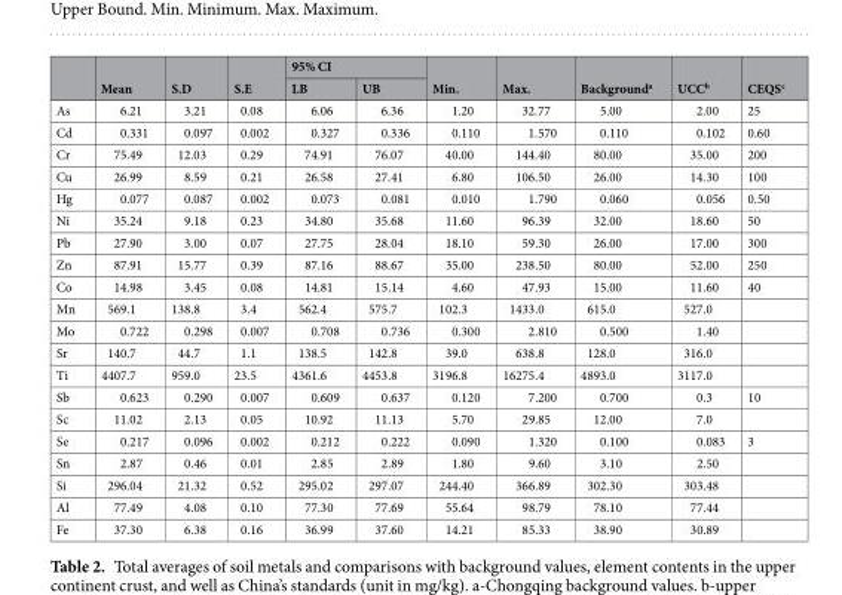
<table><thead><tr><td rowspan="2"></td><td rowspan="2">Mean</td><td rowspan="2">S.D</td><td rowspan="2">S.E</td><td colspan="2">95% CI</td><td rowspan="2">Min.</td><td rowspan="2">Max.</td><td rowspan="2">Background<sup>a</sup></td><td rowspan="2">UCC<sup>b</sup></td><td rowspan="2">CEQS<sup>c</sup></td></tr><tr><td>LB</td><td>UB</td></tr></thead><tbody><tr><td>As</td><td>6.21</td><td>3.21</td><td>0.08</td><td>6.06</td><td>6.36</td><td>1.20</td><td>32.77</td><td>5.00</td><td>2.00</td><td>25</td></tr><tr><td>Cd</td><td>0.331</td><td>0.097</td><td>0.002</td><td>0.327</td><td>0.336</td><td>0.110</td><td>1.570</td><td>0.110</td><td>0.102</td><td>0.60</td></tr><tr><td>Cr</td><td>75.49</td><td>12.03</td><td>0.29</td><td>74.91</td><td>76.07</td><td>40.00</td><td>144.40</td><td>80.00</td><td>35.00</td><td>200</td></tr><tr><td>Cu</td><td>26.99</td><td>8.59</td><td>0.21</td><td>26.58</td><td>27.41</td><td>6.80</td><td>106.50</td><td>26.00</td><td>14.30</td><td>100</td></tr><tr><td>Hg</td><td>0.077</td><td>0.087</td><td>0.002</td><td>0.073</td><td>0.081</td><td>0.010</td><td>1.790</td><td>0.060</td><td>0.056</td><td>0.50</td></tr><tr><td>Ni</td><td>35.24</td><td>9.18</td><td>0.23</td><td>34.80</td><td>35.68</td><td>11.60</td><td>96.39</td><td>32.00</td><td>18.60</td><td>50</td></tr><tr><td>Pb</td><td>27.90</td><td>3.00</td><td>0.07</td><td>27.75</td><td>28.04</td><td>18.10</td><td>59.30</td><td>26.00</td><td>17.00</td><td>300</td></tr><tr><td>Zn</td><td>87.91</td><td>15.77</td><td>0.39</td><td>87.16</td><td>88.67</td><td>35.00</td><td>238.50</td><td>80.00</td><td>52.00</td><td>250</td></tr><tr><td>Co</td><td>14.98</td><td>3.45</td><td>0.08</td><td>14.81</td><td>15.14</td><td>4.60</td><td>47.93</td><td>15.00</td><td>11.60</td><td>40</td></tr><tr><td>Mn</td><td>569.1</td><td>138.8</td><td>3.4</td><td>562.4</td><td>575.7</td><td>102.3</td><td>1433.0</td><td>615.0</td><td>527.0</td><td></td></tr><tr><td>Mo</td><td>0.722</td><td>0.298</td><td>0.007</td><td>0.708</td><td>0.736</td><td>0.300</td><td>2.810</td><td>0.500</td><td>1.40</td><td></td></tr><tr><td>Sr</td><td>140.7</td><td>44.7</td><td>1.1</td><td>138.5</td><td>142.8</td><td>39.0</td><td>638.8</td><td>128.0</td><td>316.0</td><td></td></tr><tr><td>Ti</td><td>4407.7</td><td>959.0</td><td>23.5</td><td>4361.6</td><td>4453.8</td><td>3196.8</td><td>16275.4</td><td>4893.0</td><td>3117.0</td><td></td></tr><tr><td>Sb</td><td>0.623</td><td>0.290</td><td>0.007</td><td>0.609</td><td>0.637</td><td>0.120</td><td>7.200</td><td>0.700</td><td>0.3</td><td>10</td></tr><tr><td>Sc</td><td>11.02</td><td>2.13</td><td>0.05</td><td>10.92</td><td>11.13</td><td>5.70</td><td>29.85</td><td>12.00</td><td>7.0</td><td></td></tr><tr><td>Se</td><td>0.217</td><td>0.096</td><td>0.002</td><td>0.212</td><td>0.222</td><td>0.090</td><td>1.320</td><td>0.100</td><td>0.083</td><td>3</td></tr><tr><td>Sn</td><td>2.87</td><td>0.46</td><td>0.01</td><td>2.85</td><td>2.89</td><td>1.80</td><td>9.60</td><td>3.10</td><td>2.50</td><td></td></tr><tr><td>Si</td><td>296.04</td><td>21.32</td><td>0.52</td><td>295.02</td><td>297.07</td><td>244.40</td><td>366.89</td><td>302.30</td><td>303.48</td><td></td></tr><tr><td>Al</td><td>77.49</td><td>4.08</td><td>0.10</td><td>77.30</td><td>77.69</td><td>55.64</td><td>98.79</td><td>78.10</td><td>77.44</td><td></td></tr><tr><td>Fe</td><td>37.30</td><td>6.38</td><td>0.16</td><td>36.99</td><td>37.60</td><td>14.21</td><td>85.33</td><td>38.90</td><td>30.89</td><td></td></tr></tbody></table>